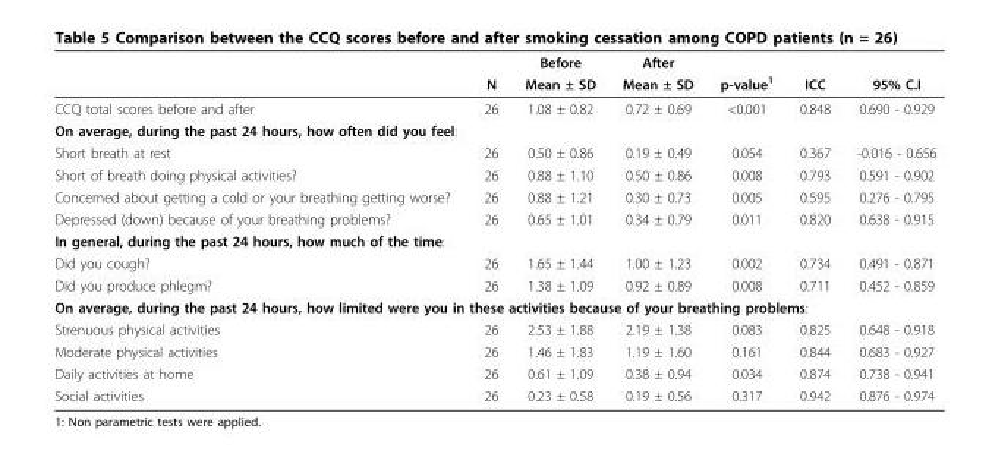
<table><thead><tr><td rowspan="2"></td><td rowspan="2">N</td><td rowspan="2">Before Mean ± SD</td><td rowspan="2">After Mean ± SD</td><td rowspan="2">p-value<sup>1</sup></td><td rowspan="2">ICC</td><td rowspan="2">95% C.I</td></tr><tr></tr></thead><tbody><tr><td>CCQ total scores before and after</td><td>26</td><td>1.08 ± 0.82</td><td>0.72 ± 0.69</td><td>&lt;0.001</td><td>0.848</td><td>0.690 - 0.929</td></tr><tr><td colspan="7">On average, during the past 24 hours, how often did you feel:</td></tr><tr><td>Short breath at rest</td><td>26</td><td>0.50 ± 0.86</td><td>0.19 ± 0.49</td><td>0.054</td><td>0.367</td><td>-0.016 - 0.656</td></tr><tr><td>Short of breath doing physical activities?</td><td>26</td><td>0.88 ± 1.10</td><td>0.50 ± 0.86</td><td>0.008</td><td>0.793</td><td>0.591 - 0.902</td></tr><tr><td>Concerned about getting a cold or your breathing getting worse?</td><td>26</td><td>0.88 ± 1.21</td><td>0.30 ± 0.73</td><td>0.005</td><td>0.595</td><td>0.276 - 0.795</td></tr><tr><td>Depressed (down) because of your breathing problems?</td><td>26</td><td>0.65 ± 1.01</td><td>0.34 ± 0.79</td><td>0.011</td><td>0.820</td><td>0.638 - 0.915</td></tr><tr><td colspan="7">In general, during the past 24 hours, how much of the time:</td></tr><tr><td>Did you cough?</td><td>26</td><td>1.65 ± 1.44</td><td>1.00 ± 1.23</td><td>0.002</td><td>0.734</td><td>0.491 - 0.871</td></tr><tr><td>Did you produce phlegm?</td><td>26</td><td>1.38 ± 1.09</td><td>0.92 ± 0.89</td><td>0.008</td><td>0.711</td><td>0.452 - 0.859</td></tr><tr><td colspan="7">On average, during the past 24 hours, how limited were you in these activities because of your breathing problems:</td></tr><tr><td>Strenuous physical activities</td><td>26</td><td>2.53 ± 1.88</td><td>2.19 ± 1.38</td><td>0.083</td><td>0.825</td><td>0.648 - 0.918</td></tr><tr><td>Moderate physical activities</td><td>26</td><td>1.46 ± 1.83</td><td>1.19 ± 1.60</td><td>0.161</td><td>0.844</td><td>0.683 - 0.927</td></tr><tr><td>Daily activities at home</td><td>26</td><td>0.61 ± 1.09</td><td>0.38 ± 0.94</td><td>0.034</td><td>0.874</td><td>0.738 - 0.941</td></tr><tr><td>Social activities</td><td>26</td><td>0.23 ± 0.58</td><td>0.19 ± 0.56</td><td>0.317</td><td>0.942</td><td>0.876 - 0.974</td></tr></tbody></table>